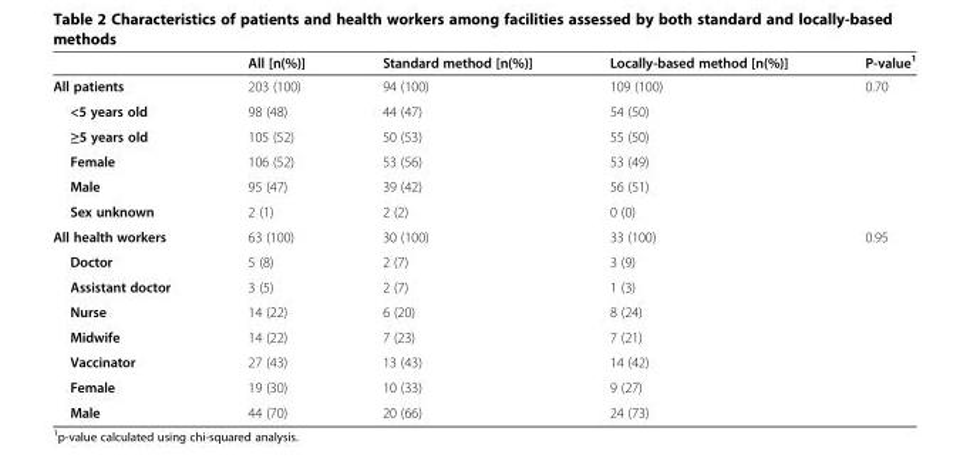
<table><thead><tr><td></td><td>All [n(%)]</td><td>Standard method [n(%)]</td><td>Locally-based method [n(%)]</td><td>P-value<sup>1</sup></td></tr></thead><tbody><tr><td>All patients</td><td>203 (100)</td><td>94 (100)</td><td>109 (100)</td><td rowspan="3">0.70</td></tr><tr><td>&lt;5 years old</td><td>98 (48)</td><td>44 (47)</td><td>54 (50)</td></tr><tr><td>≥5 years old</td><td>105 (52)</td><td>50 (53)</td><td>55 (50)</td></tr><tr><td>Female</td><td>106 (52)</td><td>53 (56)</td><td>53 (49)</td><td></td></tr><tr><td>Male</td><td>95 (47)</td><td>39 (42)</td><td>56 (51)</td><td></td></tr><tr><td>Sex unknown</td><td>2 (1)</td><td>2 (2)</td><td>0 (0)</td><td></td></tr><tr><td>All health workers</td><td>63 (100)</td><td>30 (100)</td><td>33 (100)</td><td rowspan="6">0.95</td></tr><tr><td>Doctor</td><td>5 (8)</td><td>2 (7)</td><td>3 (9)</td></tr><tr><td>Assistant doctor</td><td>3 (5)</td><td>2 (7)</td><td>1 (3)</td></tr><tr><td>Nurse</td><td>14 (22)</td><td>6 (20)</td><td>8 (24)</td></tr><tr><td>Midwife</td><td>14 (22)</td><td>7 (23)</td><td>7 (21)</td></tr><tr><td>Vaccinator</td><td>27 (43)</td><td>13 (43)</td><td>14 (42)</td></tr><tr><td>Female</td><td>19 (30)</td><td>10 (33)</td><td>9 (27)</td><td></td></tr><tr><td>Male</td><td>44 (70)</td><td>20 (66)</td><td>24 (73)</td><td></td></tr></tbody></table>